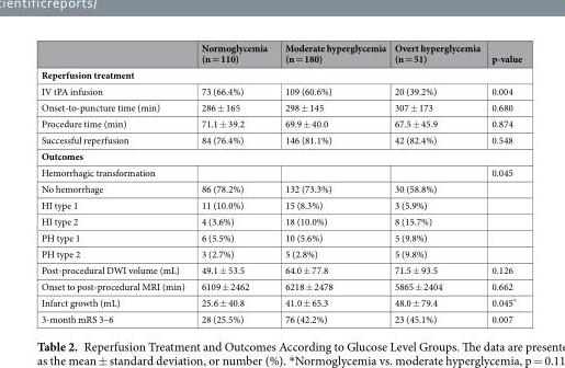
<table><thead><tr><td></td><td>Normoglycemia (n = 110)</td><td>Moderate hyperglycemia (n = 180)</td><td>Overt hyperglycemia (n = 51)</td><td>p-value</td></tr></thead><tbody><tr><td colspan="5">Reperfusion treatment</td></tr><tr><td>IV tPA infusion</td><td>73 (66.4%)</td><td>109 (60.6%)</td><td>20 (39.2%)</td><td>0.004</td></tr><tr><td>Onset-to-puncture time (min)</td><td>286 ± 165</td><td>298 ± 145</td><td>307 ± 173</td><td>0.680</td></tr><tr><td>Procedure time (min)</td><td>71.1 ± 39.2</td><td>69.9 ± 40.0</td><td>67.5 ± 45.9</td><td>0.874</td></tr><tr><td>Successful reperfusion</td><td>84 (76.4%)</td><td>146 (81.1%)</td><td>42 (82.4%)</td><td>0.548</td></tr><tr><td colspan="5">Outcomes</td></tr><tr><td>Hemorrhagic transformation</td><td></td><td></td><td></td><td>0.045</td></tr><tr><td>No hemorrhage</td><td>86 (78.2%)</td><td>132 (73.3%)</td><td>30 (58.8%)</td><td></td></tr><tr><td>HI type 1</td><td>11 (10.0%)</td><td>15 (8.3%)</td><td>3 (5.9%)</td><td></td></tr><tr><td>HI type 2</td><td>4 (3.6%)</td><td>18 (10.0%)</td><td>8 (15.7%)</td><td></td></tr><tr><td>PH type 1</td><td>6 (5.5%)</td><td>10 (5.6%)</td><td>5 (9.8%)</td><td></td></tr><tr><td>PH type 2</td><td>3 (2.7%)</td><td>5 (2.8%)</td><td>5 (9.8%)</td><td></td></tr><tr><td>Post-procedural DWI volume (mL)</td><td>49.1 ± 53.5</td><td>64.0 ± 77.8</td><td>71.5 ± 93.5</td><td>0.126</td></tr><tr><td>Onset to post-procedural MRI (min)</td><td>6109 ± 2462</td><td>6218 ± 2478</td><td>5865 ± 2404</td><td>0.662</td></tr><tr><td>Infarct growth (mL)</td><td>25.6 ± 40.8</td><td>41.0 ± 65.3</td><td>48.0 ± 79.4</td><td>0.045*</td></tr><tr><td>3-month mRS 3–6</td><td>28 (25.5%)</td><td>76 (42.2%)</td><td>23 (45.1%)</td><td>0.007</td></tr></tbody></table>